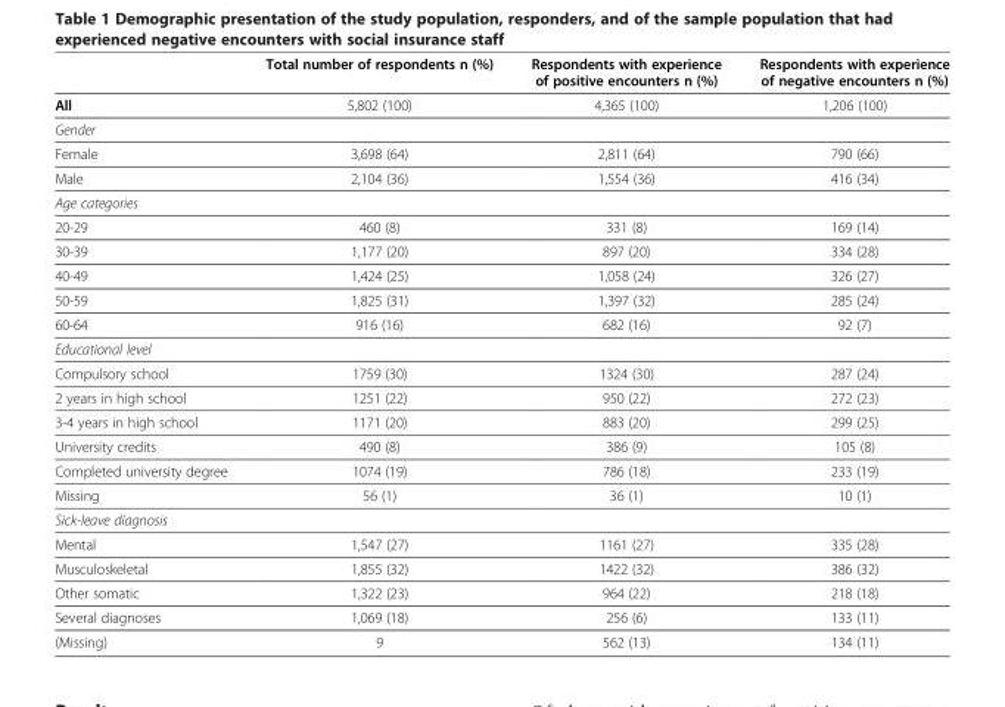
<table><thead><tr><td></td><td>Total number of respondents n (%)</td><td>Respondents with experience of positive encounters n (%)</td><td>Respondents with experience of negative encounters n (%)</td></tr></thead><tbody><tr><td>All</td><td>5,802 (100)</td><td>4,365 (100)</td><td>1,206 (100)</td></tr><tr><td colspan="4">Gender</td></tr><tr><td>Female</td><td>3,698 (64)</td><td>2,811 (64)</td><td>790 (66)</td></tr><tr><td>Male</td><td>2,104 (36)</td><td>1,554 (36)</td><td>416 (34)</td></tr><tr><td colspan="4">Age categories</td></tr><tr><td>20-29</td><td>460 (8)</td><td>331 (8)</td><td>169 (14)</td></tr><tr><td>30-39</td><td>1,177 (20)</td><td>897 (20)</td><td>334 (28)</td></tr><tr><td>40-49</td><td>1,424 (25)</td><td>1,058 (24)</td><td>326 (27)</td></tr><tr><td>50-59</td><td>1,825 (31)</td><td>1,397 (32)</td><td>285 (24)</td></tr><tr><td>60-64</td><td>916 (16)</td><td>682 (16)</td><td>92 (7)</td></tr><tr><td colspan="4">Educational level</td></tr><tr><td>Compulsory school</td><td>1759 (30)</td><td>1324 (30)</td><td>287 (24)</td></tr><tr><td>2 years in high school</td><td>1251 (22)</td><td>950 (22)</td><td>272 (23)</td></tr><tr><td>3-4 years in high school</td><td>1171 (20)</td><td>883 (20)</td><td>299 (25)</td></tr><tr><td>University credits</td><td>490 (8)</td><td>386 (9)</td><td>105 (8)</td></tr><tr><td>Completed university degree</td><td>1074 (19)</td><td>786 (18)</td><td>233 (19)</td></tr><tr><td>Missing</td><td>56 (1)</td><td>36 (1)</td><td>10 (1)</td></tr><tr><td colspan="4">Sick-leave diagnosis</td></tr><tr><td>Mental</td><td>1,547 (27)</td><td>1161 (27)</td><td>335 (28)</td></tr><tr><td>Musculoskeletal</td><td>1,855 (32)</td><td>1422 (32)</td><td>386 (32)</td></tr><tr><td>Other somatic</td><td>1,322 (23)</td><td>964 (22)</td><td>218 (18)</td></tr><tr><td>Several diagnoses</td><td>1,069 (18)</td><td>256 (6)</td><td>133 (11)</td></tr><tr><td>(Missing)</td><td>9</td><td>562 (13)</td><td>134 (11)</td></tr></tbody></table>